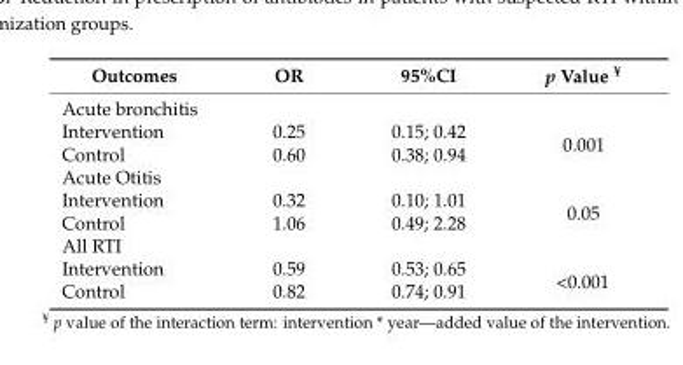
<table><thead><tr><td>Outcomes</td><td>OR</td><td>95%CI</td><td>p Value <sup>¥</sup></td></tr></thead><tbody><tr><td colspan="4">Acute bronchitis</td></tr><tr><td>Intervention</td><td>0.25</td><td>0.15; 0.42</td><td rowspan="2">0.001</td></tr><tr><td>Control</td><td>0.60</td><td>0.38; 0.94</td></tr><tr><td colspan="4">Acute Otitis</td></tr><tr><td>Intervention</td><td>0.32</td><td>0.10; 1.01</td><td rowspan="2">0.05</td></tr><tr><td>Control</td><td>1.06</td><td>0.49; 2.28</td></tr><tr><td colspan="4">All RTI</td></tr><tr><td>Intervention</td><td>0.59</td><td>0.53; 0.65</td><td rowspan="2">&lt;0.001</td></tr><tr><td>Control</td><td>0.82</td><td>0.74; 0.91</td></tr></tbody></table>